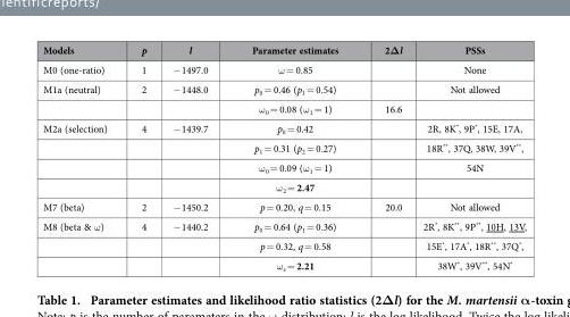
<table><thead><tr><td>Models</td><td>p</td><td>l</td><td>Parameter estimates</td><td>2Δl</td><td>PSSs</td></tr></thead><tbody><tr><td>M0 (one-ratio)</td><td>1</td><td>− 1497.0</td><td>ω = 0.85</td><td></td><td>None</td></tr><tr><td rowspan="2">M1a (neutral)</td><td>2</td><td>− 1448.0</td><td>p<sub>0</sub> = 0.46 (p<sub>1</sub> = 0.54)</td><td></td><td>Not allowed</td></tr><tr><td></td><td></td><td>ω <sub>0</sub> = 0.08 (ω <sub>1</sub> = 1)</td><td>16.6</td><td></td></tr><tr><td rowspan="4">M2a (selection)</td><td>4</td><td>− 1439.7</td><td>p<sub>0</sub> = 0.42</td><td></td><td>2R, 8K*, 9P*, 15E, 17A,</td></tr><tr><td></td><td></td><td>p<sub>1</sub> = 0.31 (p<sub>2</sub> = 0.27)</td><td></td><td>18R**, 37Q, 38W, 39V**,</td></tr><tr><td></td><td></td><td>ω <sub>0</sub> = 0.09 (ω <sub>1</sub> = 1)</td><td></td><td>54N</td></tr><tr><td></td><td></td><td>ω <sub>2</sub> = 2.47</td><td></td><td></td></tr><tr><td>M7 (beta)</td><td>2</td><td>− 1450.2</td><td>p = 0.20, q = 0.15</td><td>20.0</td><td>Not allowed</td></tr><tr><td rowspan="3">M8 (beta &amp; ω )</td><td>4</td><td>− 1440.2</td><td>p<sub>0</sub> = 0.64 (p<sub>1</sub> = 0.36)</td><td></td><td>2R*, 8K**, 9P**, 10H, 13V,</td></tr><tr><td></td><td></td><td>p = 0.32, q = 0.58</td><td></td><td>15E*, 17A*, 18R**, 37Q*,</td></tr><tr><td></td><td></td><td>ω <sub>s</sub> = 2.21</td><td></td><td>38W*, 39V**, 54N*</td></tr></tbody></table>